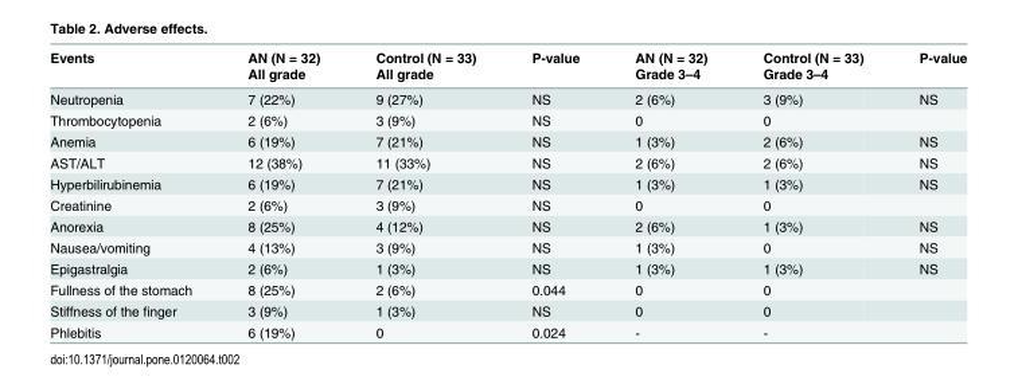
<table><thead><tr><td rowspan="2">Events</td><td rowspan="2">AN (N = 32) All grade</td><td rowspan="2">Control (N = 33) All grade</td><td rowspan="2">P-value</td><td rowspan="2">AN (N = 32) Grade 3–4</td><td rowspan="2">Control (N = 33) Grade 3–4</td><td rowspan="2">P-value</td></tr><tr></tr></thead><tbody><tr><td>Neutropenia</td><td>7 (22%)</td><td>9 (27%)</td><td>NS</td><td>2 (6%)</td><td>3 (9%)</td><td>NS</td></tr><tr><td>Thrombocytopenia</td><td>2 (6%)</td><td>3 (9%)</td><td>NS</td><td>0</td><td>0</td><td></td></tr><tr><td>Anemia</td><td>6 (19%)</td><td>7 (21%)</td><td>NS</td><td>1 (3%)</td><td>2 (6%)</td><td>NS</td></tr><tr><td>AST/ALT</td><td>12 (38%)</td><td>11 (33%)</td><td>NS</td><td>2 (6%)</td><td>2 (6%)</td><td>NS</td></tr><tr><td>Hyperbilirubinemia</td><td>6 (19%)</td><td>7 (21%)</td><td>NS</td><td>1 (3%)</td><td>1 (3%)</td><td>NS</td></tr><tr><td>Creatinine</td><td>2 (6%)</td><td>3 (9%)</td><td>NS</td><td>0</td><td>0</td><td></td></tr><tr><td>Anorexia</td><td>8 (25%)</td><td>4 (12%)</td><td>NS</td><td>2 (6%)</td><td>1 (3%)</td><td>NS</td></tr><tr><td>Nausea/vomiting</td><td>4 (13%)</td><td>3 (9%)</td><td>NS</td><td>1 (3%)</td><td>0</td><td>NS</td></tr><tr><td>Epigastralgia</td><td>2 (6%)</td><td>1 (3%)</td><td>NS</td><td>1 (3%)</td><td>1 (3%)</td><td>NS</td></tr><tr><td>Fullness of the stomach</td><td>8 (25%)</td><td>2 (6%)</td><td>0.044</td><td>0</td><td>0</td><td></td></tr><tr><td>Stiffness of the finger</td><td>3 (9%)</td><td>1 (3%)</td><td>NS</td><td>0</td><td>0</td><td></td></tr><tr><td>Phlebitis</td><td>6 (19%)</td><td>0</td><td>0.024</td><td>-</td><td>-</td><td></td></tr></tbody></table>